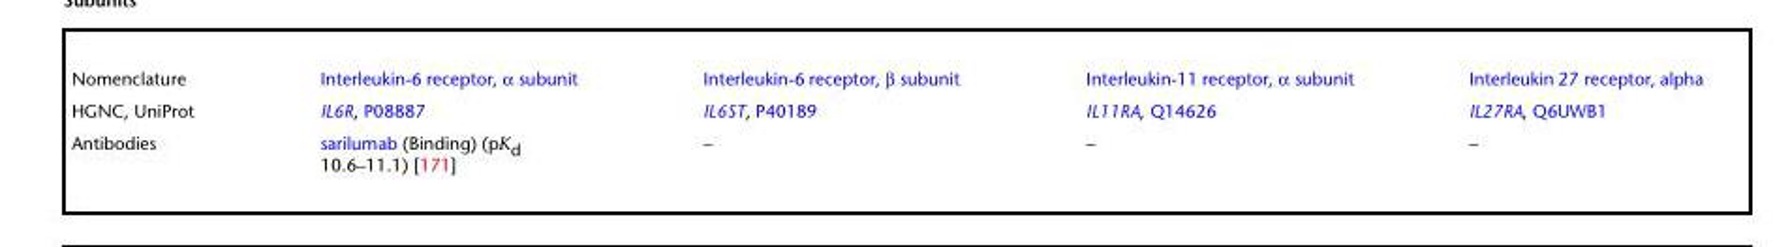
<table><tbody><tr><td>Nomenclature</td><td>Interleukin-6 receptor, α subunit</td><td>Interleukin-6 receptor, β subunit</td><td>Interleukin-11 receptor, α subunit</td><td>Interleukin 27 receptor, alpha</td></tr><tr><td>HGNC, UniProt</td><td>IL6R, P08887</td><td>IL6ST, P40189</td><td>IL11RA, Q14626</td><td>IL27RA, Q6UWB1</td></tr><tr><td>Antibodies</td><td>sarilumab (Binding) (pKd 10.6–11.1) [171]</td><td>–</td><td>–</td><td>–</td></tr></tbody></table>